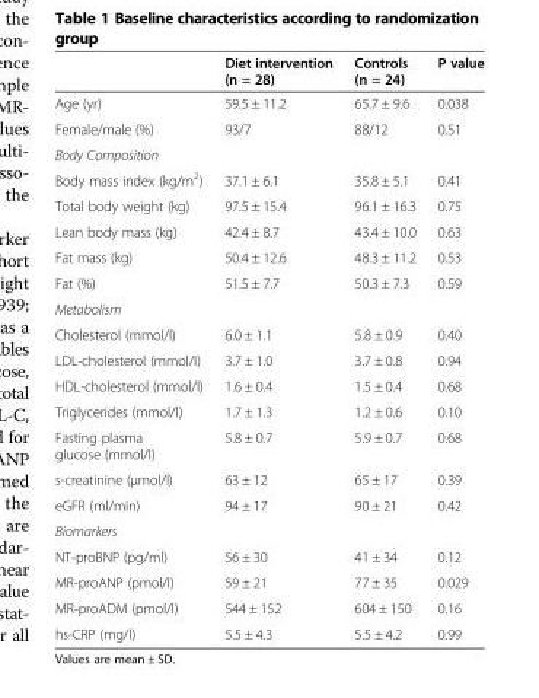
<table><thead><tr><td></td><td>Diet intervention (n = 28)</td><td>Controls (n = 24)</td><td>P value</td></tr></thead><tbody><tr><td>Age (yr)</td><td>59.5 ± 11.2</td><td>65.7 ± 9.6</td><td>0.038</td></tr><tr><td>Female/male (%)</td><td>93/7</td><td>88/12</td><td>0.51</td></tr><tr><td colspan="4">Body Composition</td></tr><tr><td>Body mass index (kg/m<sup>2</sup>)</td><td>37.1 ± 6.1</td><td>35.8 ± 5.1</td><td>0.41</td></tr><tr><td>Total body weight (kg)</td><td>97.5 ± 15.4</td><td>96.1 ± 16.3</td><td>0.75</td></tr><tr><td>Lean body mass (kg)</td><td>42.4 ± 8.7</td><td>43.4 ± 10.0</td><td>0.63</td></tr><tr><td>Fat mass (kg)</td><td>50.4 ± 12.6</td><td>48.3 ± 11.2</td><td>0.53</td></tr><tr><td>Fat (%)</td><td>51.5 ± 7.7</td><td>50.3 ± 7.3</td><td>0.59</td></tr><tr><td colspan="4">Metabolism</td></tr><tr><td>Cholesterol (mmol/l)</td><td>6.0 ± 1.1</td><td>5.8 ± 0.9</td><td>0.40</td></tr><tr><td>LDL-cholesterol (mmol/l)</td><td>3.7 ± 1.0</td><td>3.7 ± 0.8</td><td>0.94</td></tr><tr><td>HDL-cholesterol (mmol/l)</td><td>1.6 ± 0.4</td><td>1.5 ± 0.4</td><td>0.68</td></tr><tr><td>Triglycerides (mmol/l)</td><td>1.7 ± 1.3</td><td>1.2 ± 0.6</td><td>0.10</td></tr><tr><td>Fasting plasma glucose (mmol/l)</td><td>5.8 ± 0.7</td><td>5.9 ± 0.7</td><td>0.68</td></tr><tr><td>s-creatinine (μmol/l)</td><td>63 ± 12</td><td>65 ± 17</td><td>0.39</td></tr><tr><td>eGFR (ml/min)</td><td>94 ± 17</td><td>90 ± 21</td><td>0.42</td></tr><tr><td colspan="4">Biomarkers</td></tr><tr><td>NT-proBNP (pg/ml)</td><td>56 ± 30</td><td>41 ± 34</td><td>0.12</td></tr><tr><td>MR-proANP (pmol/l)</td><td>59 ± 21</td><td>77 ± 35</td><td>0.029</td></tr><tr><td>MR-proADM (pmol/l)</td><td>544 ± 152</td><td>604 ± 150</td><td>0.16</td></tr><tr><td>hs-CRP (mg/l)</td><td>5.5 ± 4.3</td><td>5.5 ± 4.2</td><td>0.99</td></tr></tbody></table>